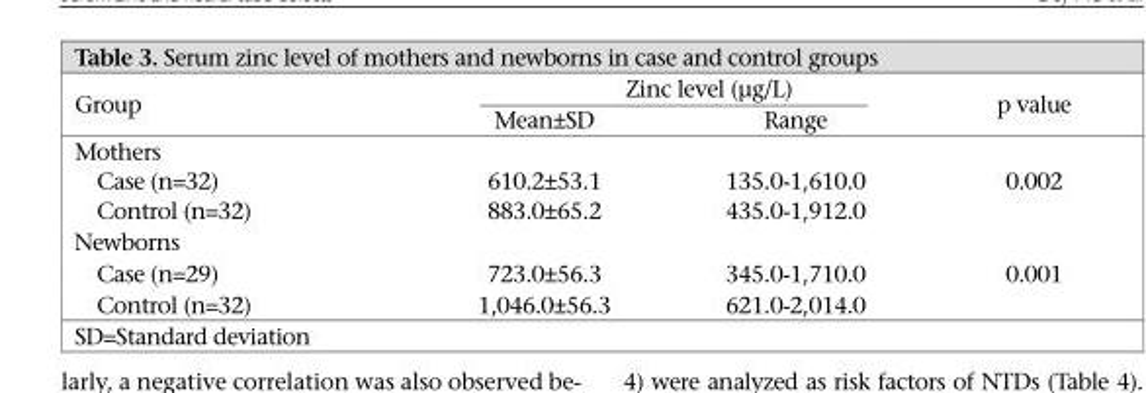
<table><thead><tr><td rowspan="2">Group</td><td colspan="2">Zinc level (µg/L)</td><td rowspan="2">p value</td></tr><tr><td>Mean±SD</td><td>Range</td></tr></thead><tbody><tr><td colspan="4">Mothers</td></tr><tr><td>Case (n=32)</td><td>610.2±53.1</td><td>135.0-1,610.0</td><td>0.002</td></tr><tr><td>Control (n=32)</td><td>883.0±65.2</td><td>435.0-1,912.0</td><td></td></tr><tr><td colspan="4">Newborns</td></tr><tr><td>Case (n=29)</td><td>723.0±56.3</td><td>345.0-1,710.0</td><td>0.001</td></tr><tr><td>Control (n=32)</td><td>1,046.0±56.3</td><td>621.0-2,014.0</td><td></td></tr></tbody></table>